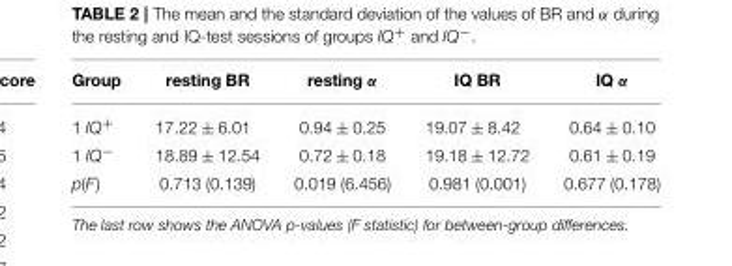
<table><thead><tr><td>Group</td><td>resting BR</td><td>resting α</td><td>IQ BR</td><td>IQ α</td></tr></thead><tbody><tr><td>1 IQ<sup>+</sup></td><td>17.22 ± 6.01</td><td>0.94 ± 0.25</td><td>19.07 ± 8.42</td><td>0.64 ± 0.10</td></tr><tr><td>1 IQ<sup>−</sup></td><td>18.89 ± 12.54</td><td>0.72 ± 0.18</td><td>19.18 ± 12.72</td><td>0.61 ± 0.19</td></tr><tr><td>p(F)</td><td>0.713 (0.139)</td><td>0.019 (6.456)</td><td>0.981 (0.001)</td><td>0.677 (0.178)</td></tr></tbody></table>